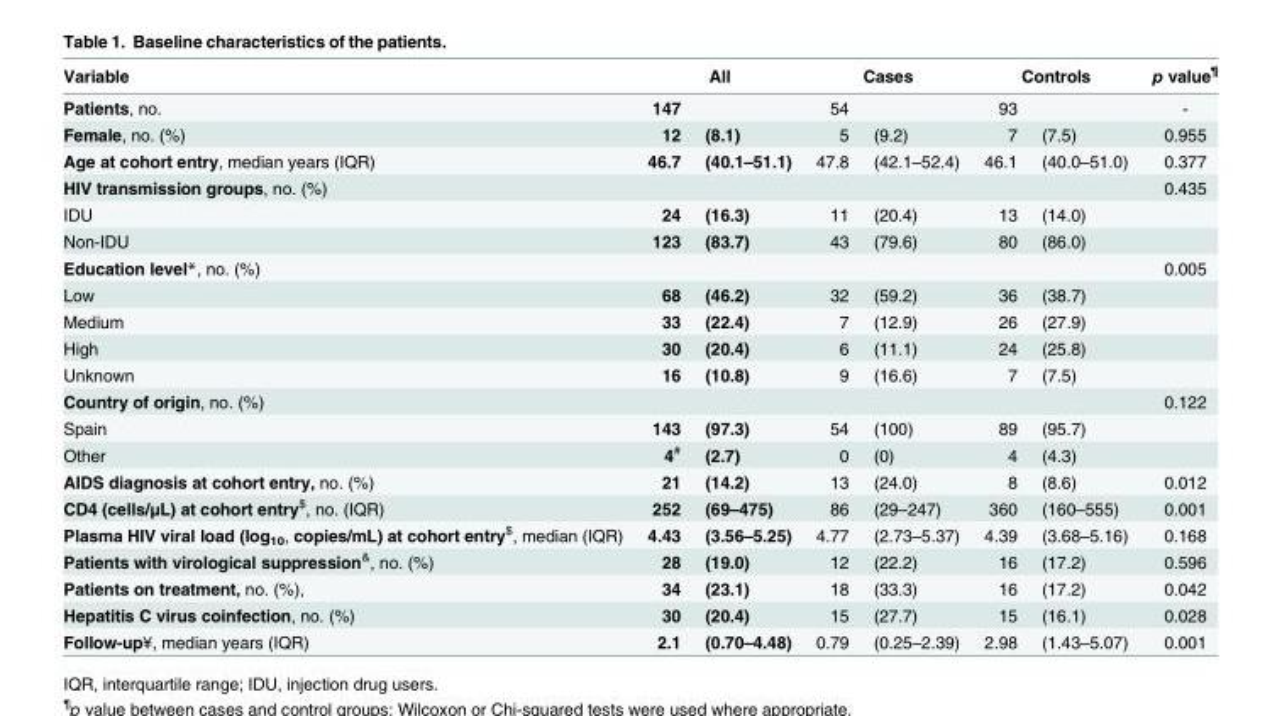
<table><thead><tr><td rowspan="2">Variable Patients, no.</td><td colspan="2">All</td><td colspan="2">Cases</td><td colspan="2">Controls</td><td rowspan="2">p value<sup>¶</sup> -</td></tr><tr><td>147</td><td></td><td>54</td><td></td><td>93</td><td></td></tr></thead><tbody><tr><td>Female, no. (%)</td><td>12</td><td>(8.1)</td><td>5</td><td>(9.2)</td><td>7</td><td>(7.5)</td><td>0.955</td></tr><tr><td>Age at cohort entry, median years (IQR)</td><td>46.7</td><td>(40.1–51.1)</td><td>47.8</td><td>(42.1–52.4)</td><td>46.1</td><td>(40.0–51.0)</td><td>0.377</td></tr><tr><td>HIV transmission groups, no. (%)</td><td></td><td></td><td></td><td></td><td></td><td></td><td>0.435</td></tr><tr><td>IDU</td><td>24</td><td>(16.3)</td><td>11</td><td>(20.4)</td><td>13</td><td>(14.0)</td><td></td></tr><tr><td>Non-IDU</td><td>123</td><td>(83.7)</td><td>43</td><td>(79.6)</td><td>80</td><td>(86.0)</td><td></td></tr><tr><td>Education level*, no. (%)</td><td></td><td></td><td></td><td></td><td></td><td></td><td>0.005</td></tr><tr><td>Low</td><td>68</td><td>(46.2)</td><td>32</td><td>(59.2)</td><td>36</td><td>(38.7)</td><td></td></tr><tr><td>Medium</td><td>33</td><td>(22.4)</td><td>7</td><td>(12.9)</td><td>26</td><td>(27.9)</td><td></td></tr><tr><td>High</td><td>30</td><td>(20.4)</td><td>6</td><td>(11.1)</td><td>24</td><td>(25.8)</td><td></td></tr><tr><td>Unknown</td><td>16</td><td>(10.8)</td><td>9</td><td>(16.6)</td><td>7</td><td>(7.5)</td><td></td></tr><tr><td>Country of origin, no. (%)</td><td></td><td></td><td></td><td></td><td></td><td></td><td>0.122</td></tr><tr><td>Spain</td><td>143</td><td>(97.3)</td><td>54</td><td>(100)</td><td>89</td><td>(95.7)</td><td></td></tr><tr><td>Other</td><td>4<sup>#</sup></td><td>(2.7)</td><td>0</td><td>(0)</td><td>4</td><td>(4.3)</td><td></td></tr><tr><td>AIDS diagnosis at cohort entry, no. (%)</td><td>21</td><td>(14.2)</td><td>13</td><td>(24.0)</td><td>8</td><td>(8.6)</td><td>0.012</td></tr><tr><td>CD4 (cells/μL) at cohort entry<sup>$</sup>, no. (IQR)</td><td>252</td><td>(69–475)</td><td>86</td><td>(29–247)</td><td>360</td><td>(160–555)</td><td>0.001</td></tr><tr><td>Plasma HIV viral load (log<sub>10</sub>, copies/mL) at cohort entry<sup>$</sup>, median (IQR)</td><td>4.43</td><td>(3.56–5.25)</td><td>4.77</td><td>(2.73–5.37)</td><td>4.39</td><td>(3.68–5.16)</td><td>0.168</td></tr><tr><td>Patients with virological suppression<sup>&amp;</sup>, no. (%)</td><td>28</td><td>(19.0)</td><td>12</td><td>(22.2)</td><td>16</td><td>(17.2)</td><td>0.596</td></tr><tr><td>Patients on treatment, no. (%),</td><td>34</td><td>(23.1)</td><td>18</td><td>(33.3)</td><td>16</td><td>(17.2)</td><td>0.042</td></tr><tr><td>Hepatitis C virus coinfection, no. (%)</td><td>30</td><td>(20.4)</td><td>15</td><td>(27.7)</td><td>15</td><td>(16.1)</td><td>0.028</td></tr><tr><td>Follow-up¥, median years (IQR)</td><td>2.1</td><td>(0.70–4.48)</td><td>0.79</td><td>(0.25–2.39)</td><td>2.98</td><td>(1.43–5.07)</td><td>0.001</td></tr></tbody></table>